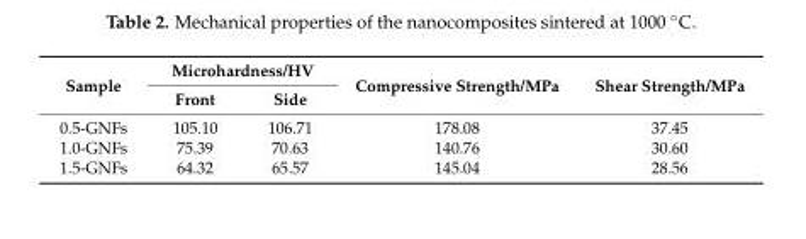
<table><thead><tr><td rowspan="2">Sample</td><td colspan="2">Microhardness/HV</td><td rowspan="2">Compressive Strength/MPa</td><td rowspan="2">Shear Strength/MPa</td></tr><tr><td>Front</td><td>Side</td></tr></thead><tbody><tr><td>0.5-GNFs</td><td>105.10</td><td>106.71</td><td>178.08</td><td>37.45</td></tr><tr><td>1.0-GNFs</td><td>75.39</td><td>70.63</td><td>140.76</td><td>30.60</td></tr><tr><td>1.5-GNFs</td><td>64.32</td><td>65.57</td><td>145.04</td><td>28.56</td></tr></tbody></table>